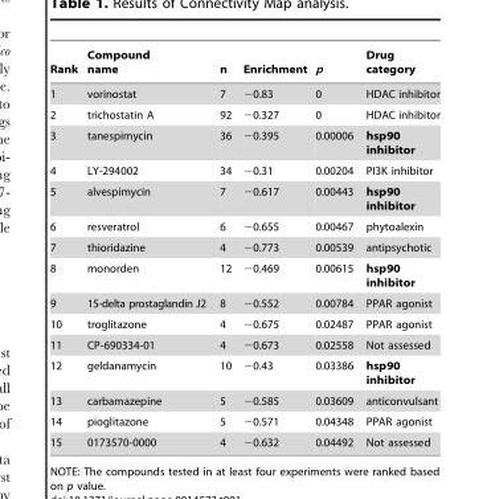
<table><thead><tr><td>Rank</td><td>Compound name</td><td>n</td><td>Enrichment</td><td>p</td><td>Drug category</td></tr></thead><tbody><tr><td>1</td><td>vorinostat</td><td>7</td><td>−0.83</td><td>0</td><td>HDAC inhibitor</td></tr><tr><td>2</td><td>trichostatin A</td><td>92</td><td>−0.327</td><td>0</td><td>HDAC inhibitor</td></tr><tr><td>3</td><td>tanespimycin</td><td>36</td><td>−0.395</td><td>0.00006</td><td>hsp90 inhibitor</td></tr><tr><td>4</td><td>LY-294002</td><td>34</td><td>−0.31</td><td>0.00204</td><td>PI3K inhibitor</td></tr><tr><td>5</td><td>alvespimycin</td><td>7</td><td>−0.617</td><td>0.00443</td><td>hsp90 inhibitor</td></tr><tr><td>6</td><td>resveratrol</td><td>6</td><td>−0.655</td><td>0.00467</td><td>phytoalexin</td></tr><tr><td>7</td><td>thioridazine</td><td>4</td><td>−0.773</td><td>0.00539</td><td>antipsychotic</td></tr><tr><td>8</td><td>monorden</td><td>12</td><td>−0.469</td><td>0.00615</td><td>hsp90 inhibitor</td></tr><tr><td>9</td><td>15-delta prostaglandin J2</td><td>8</td><td>−0.552</td><td>0.00784</td><td>PPAR agonist</td></tr><tr><td>10</td><td>troglitazone</td><td>4</td><td>−0.675</td><td>0.02487</td><td>PPAR agonist</td></tr><tr><td>11</td><td>CP-690334-01</td><td>4</td><td>−0.673</td><td>0.02558</td><td>Not assessed</td></tr><tr><td>12</td><td>geldanamycin</td><td>10</td><td>−0.43</td><td>0.03386</td><td>hsp90 inhibitor</td></tr><tr><td>13</td><td>carbamazepine</td><td>5</td><td>−0.585</td><td>0.03609</td><td>anticonvulsant</td></tr><tr><td>14</td><td>pioglitazone</td><td>5</td><td>−0.571</td><td>0.04348</td><td>PPAR agonist</td></tr><tr><td>15</td><td>0173570-0000</td><td>4</td><td>−0.632</td><td>0.04492</td><td>Not assessed</td></tr></tbody></table>